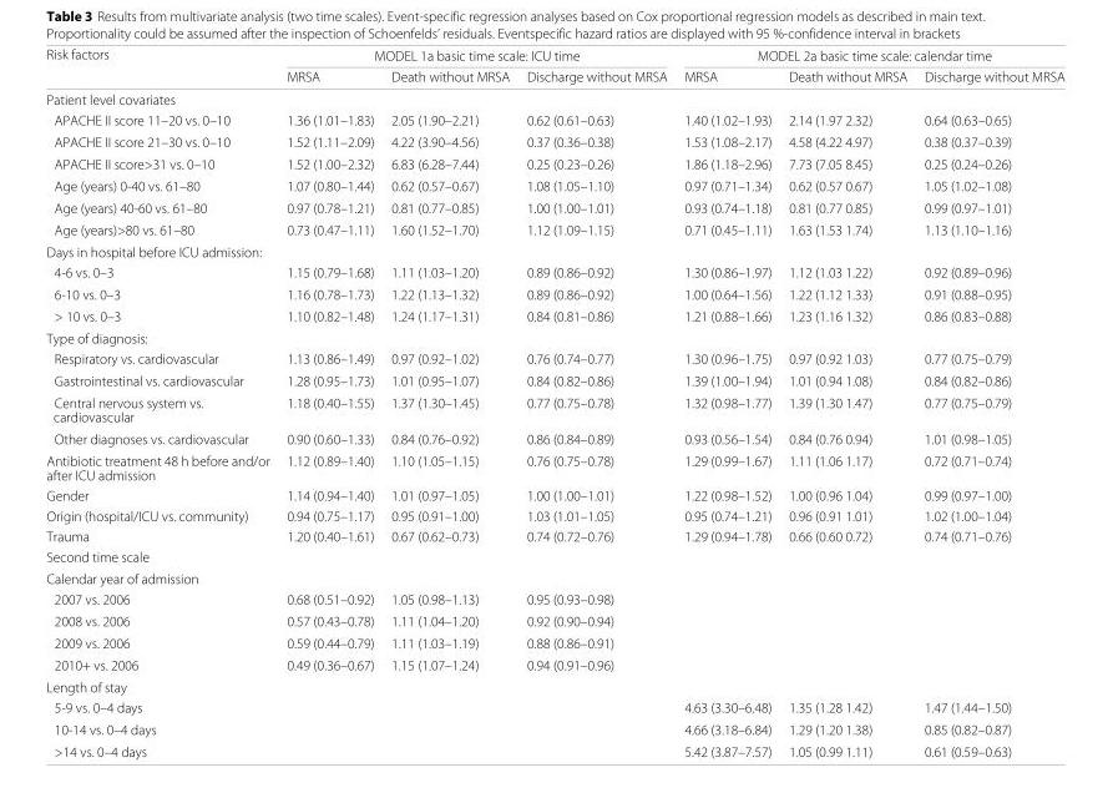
<table><thead><tr><td rowspan="2">Risk factors</td><td colspan="3">MODEL 1a basic time scale: ICU time</td><td colspan="3">MODEL 2a basic time scale: calendar time</td></tr><tr><td>MRSA</td><td>Death without MRSA</td><td>Discharge without MRSA</td><td>MRSA</td><td>Death without MRSA</td><td>Discharge without MRSA</td></tr></thead><tbody><tr><td colspan="7">Patient level covariates</td></tr><tr><td>APACHE II score 11–20 vs. 0–10</td><td>1.36 (1.01–1.83)</td><td>2.05 (1.90–2.21)</td><td>0.62 (0.61–0.63)</td><td>1.40 (1.02–1.93)</td><td>2.14 (1.97 2.32)</td><td>0.64 (0.63–0.65)</td></tr><tr><td>APACHE II score 21–30 vs. 0–10</td><td>1.52 (1.11–2.09)</td><td>4.22 (3.90–4.56)</td><td>0.37 (0.36–0.38)</td><td>1.53 (1.08–2.17)</td><td>4.58 (4.22 4.97)</td><td>0.38 (0.37–0.39)</td></tr><tr><td>APACHE II score&gt;31 vs. 0–10</td><td>1.52 (1.00–2.32)</td><td>6.83 (6.28–7.44)</td><td>0.25 (0.23–0.26)</td><td>1.86 (1.18–2.96)</td><td>7.73 (7.05 8.45)</td><td>0.25 (0.24–0.26)</td></tr><tr><td>Age (years) 0-40 vs. 61–80</td><td>1.07 (0.80–1.44)</td><td>0.62 (0.57–0.67)</td><td>1.08 (1.05–1.10)</td><td>0.97 (0.71–1.34)</td><td>0.62 (0.57 0.67)</td><td>1.05 (1.02–1.08)</td></tr><tr><td>Age (years) 40-60 vs. 61–80</td><td>0.97 (0.78–1.21)</td><td>0.81 (0.77–0.85)</td><td>1.00 (1.00–1.01)</td><td>0.93 (0.74–1.18)</td><td>0.81 (0.77 0.85)</td><td>0.99 (0.97–1.01)</td></tr><tr><td>Age (years)&gt;80 vs. 61–80</td><td>0.73 (0.47–1.11)</td><td>1.60 (1.52–1.70)</td><td>1.12 (1.09–1.15)</td><td>0.71 (0.45–1.11)</td><td>1.63 (1.53 1.74)</td><td>1.13 (1.10–1.16)</td></tr><tr><td colspan="7">Days in hospital before ICU admission:</td></tr><tr><td>4-6 vs. 0–3</td><td>1.15 (0.79–1.68)</td><td>1.11 (1.03–1.20)</td><td>0.89 (0.86–0.92)</td><td>1.30 (0.86–1.97)</td><td>1.12 (1.03 1.22)</td><td>0.92 (0.89–0.96)</td></tr><tr><td>6-10 vs. 0–3</td><td>1.16 (0.78–1.73)</td><td>1.22 (1.13–1.32)</td><td>0.89 (0.86–0.92)</td><td>1.00 (0.64–1.56)</td><td>1.22 (1.12 1.33)</td><td>0.91 (0.88–0.95)</td></tr><tr><td>&gt; 10 vs. 0–3</td><td>1.10 (0.82–1.48)</td><td>1.24 (1.17–1.31)</td><td>0.84 (0.81–0.86)</td><td>1.21 (0.88–1.66)</td><td>1.23 (1.16 1.32)</td><td>0.86 (0.83–0.88)</td></tr><tr><td colspan="7">Type of diagnosis:</td></tr><tr><td>Respiratory vs. cardiovascular</td><td>1.13 (0.86–1.49)</td><td>0.97 (0.92–1.02)</td><td>0.76 (0.74–0.77)</td><td>1.30 (0.96–1.75)</td><td>0.97 (0.92 1.03)</td><td>0.77 (0.75–0.79)</td></tr><tr><td>Gastrointestinal vs. cardiovascular</td><td>1.28 (0.95–1.73)</td><td>1.01 (0.95–1.07)</td><td>0.84 (0.82–0.86)</td><td>1.39 (1.00–1.94)</td><td>1.01 (0.94 1.08)</td><td>0.84 (0.82–0.86)</td></tr><tr><td>Central nervous system vs. cardiovascular</td><td>1.18 (0.40–1.55)</td><td>1.37 (1.30–1.45)</td><td>0.77 (0.75–0.78)</td><td>1.32 (0.98–1.77)</td><td>1.39 (1.30 1.47)</td><td>0.77 (0.75–0.79)</td></tr><tr><td>Other diagnoses vs. cardiovascular</td><td>0.90 (0.60–1.33)</td><td>0.84 (0.76–0.92)</td><td>0.86 (0.84–0.89)</td><td>0.93 (0.56–1.54)</td><td>0.84 (0.76 0.94)</td><td>1.01 (0.98–1.05)</td></tr><tr><td>Antibiotic treatment 48 h before and/or after ICU admission</td><td>1.12 (0.89–1.40)</td><td>1.10 (1.05–1.15)</td><td>0.76 (0.75–0.78)</td><td>1.29 (0.99–1.67)</td><td>1.11 (1.06 1.17)</td><td>0.72 (0.71–0.74)</td></tr><tr><td>Gender</td><td>1.14 (0.94–1.40)</td><td>1.01 (0.97–1.05)</td><td>1.00 (1.00–1.01)</td><td>1.22 (0.98–1.52)</td><td>1.00 (0.96 1.04)</td><td>0.99 (0.97–1.00)</td></tr><tr><td>Origin (hospital/ICU vs. community)</td><td>0.94 (0.75–1.17)</td><td>0.95 (0.91–1.00)</td><td>1.03 (1.01–1.05)</td><td>0.95 (0.74–1.21)</td><td>0.96 (0.91 1.01)</td><td>1.02 (1.00–1.04)</td></tr><tr><td>Trauma</td><td>1.20 (0.40–1.61)</td><td>0.67 (0.62–0.73)</td><td>0.74 (0.72–0.76)</td><td>1.29 (0.94–1.78)</td><td>0.66 (0.60 0.72)</td><td>0.74 (0.71–0.76)</td></tr><tr><td colspan="7">Second time scale</td></tr><tr><td colspan="7">Calendar year of admission</td></tr><tr><td>2007 vs. 2006</td><td>0.68 (0.51–0.92)</td><td>1.05 (0.98–1.13)</td><td>0.95 (0.93–0.98)</td><td></td><td></td><td></td></tr><tr><td>2008 vs. 2006</td><td>0.57 (0.43–0.78)</td><td>1.11 (1.04–1.20)</td><td>0.92 (0.90–0.94)</td><td></td><td></td><td></td></tr><tr><td>2009 vs. 2006</td><td>0.59 (0.44–0.79)</td><td>1.11 (1.03–1.19)</td><td>0.88 (0.86–0.91)</td><td></td><td></td><td></td></tr><tr><td>2010+ vs. 2006</td><td>0.49 (0.36–0.67)</td><td>1.15 (1.07–1.24)</td><td>0.94 (0.91–0.96)</td><td></td><td></td><td></td></tr><tr><td colspan="7">Length of stay</td></tr><tr><td>5-9 vs. 0–4 days</td><td></td><td></td><td></td><td>4.63 (3.30–6.48)</td><td>1.35 (1.28 1.42)</td><td>1.47 (1.44–1.50)</td></tr><tr><td>10-14 vs. 0–4 days</td><td></td><td></td><td></td><td>4.66 (3.18–6.84)</td><td>1.29 (1.20 1.38)</td><td>0.85 (0.82–0.87)</td></tr><tr><td>&gt;14 vs. 0–4 days</td><td></td><td></td><td></td><td>5.42 (3.87–7.57)</td><td>1.05 (0.99 1.11)</td><td>0.61 (0.59–0.63)</td></tr></tbody></table>